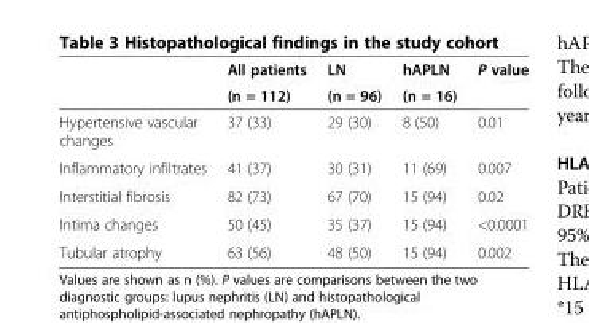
<table><thead><tr><td rowspan="2"></td><td rowspan="2">All patients (n = 112)</td><td rowspan="2">LN (n = 96)</td><td rowspan="2">hAPLN (n = 16)</td><td rowspan="2">P value</td></tr><tr></tr></thead><tbody><tr><td>Hypertensive vascular changes</td><td>37 (33)</td><td>29 (30)</td><td>8 (50)</td><td>0.01</td></tr><tr><td>Inflammatory infiltrates</td><td>41 (37)</td><td>30 (31)</td><td>11 (69)</td><td>0.007</td></tr><tr><td>Interstitial fibrosis</td><td>82 (73)</td><td>67 (70)</td><td>15 (94)</td><td>0.02</td></tr><tr><td>Intima changes</td><td>50 (45)</td><td>35 (37)</td><td>15 (94)</td><td>&lt;0.0001</td></tr><tr><td>Tubular atrophy</td><td>63 (56)</td><td>48 (50)</td><td>15 (94)</td><td>0.002</td></tr></tbody></table>